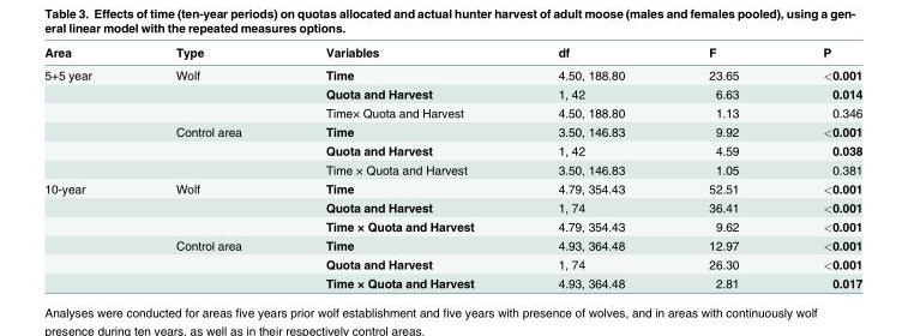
<table><thead><tr><td>Area</td><td>Type</td><td>Variables</td><td>df</td><td>F</td><td>P</td></tr></thead><tbody><tr><td rowspan="6">5+5 year</td><td>Wolf</td><td>Time</td><td>4.50, 188.80</td><td>23.65</td><td>&lt;0.001</td></tr><tr><td></td><td>Quota and Harvest</td><td>1, 42</td><td>6.63</td><td>0.014</td></tr><tr><td></td><td>Time× Quota and Harvest</td><td>4.50, 188.80</td><td>1.13</td><td>0.346</td></tr><tr><td>Control area</td><td>Time</td><td>3.50, 146.83</td><td>9.92</td><td>&lt;0.001</td></tr><tr><td></td><td>Quota and Harvest</td><td>1, 42</td><td>4.59</td><td>0.038</td></tr><tr><td></td><td>Time × Quota and Harvest</td><td>3.50, 146.83</td><td>1.05</td><td>0.381</td></tr><tr><td rowspan="6">10-year</td><td>Wolf</td><td>Time</td><td>4.79, 354.43</td><td>52.51</td><td>&lt;0.001</td></tr><tr><td></td><td>Quota and Harvest</td><td>1, 74</td><td>36.41</td><td>&lt;0.001</td></tr><tr><td></td><td>Time × Quota and Harvest</td><td>4.79, 354.43</td><td>9.62</td><td>&lt;0.001</td></tr><tr><td>Control area</td><td>Time</td><td>4.93, 364.48</td><td>12.97</td><td>&lt;0.001</td></tr><tr><td></td><td>Quota and Harvest</td><td>1, 74</td><td>26.30</td><td>&lt;0.001</td></tr><tr><td></td><td>Time × Quota and Harvest</td><td>4.93, 364.48</td><td>2.81</td><td>0.017</td></tr></tbody></table>